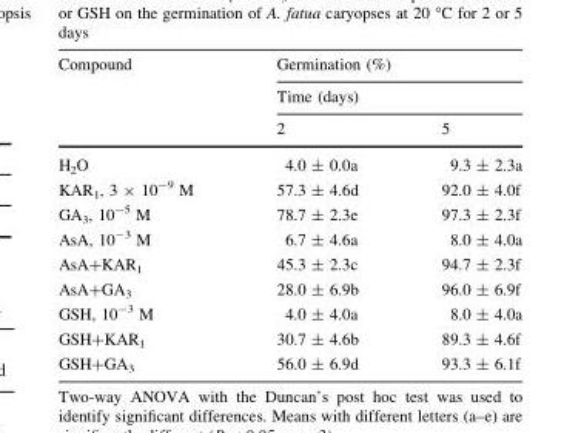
<table><thead><tr><td rowspan="3">Compound</td><td rowspan="2" colspan="2">Germination (%) Time (days)</td></tr><tr></tr><tr><td>2</td><td>5</td></tr></thead><tbody><tr><td>H<sub>2</sub>O</td><td>4.0 ± 0.0a</td><td>9.3 ± 2.3a</td></tr><tr><td>KAR<sub>1</sub>, 3 × 10<sup>-9</sup> M</td><td>57.3 ± 4.6d</td><td>92.0 ± 4.0f</td></tr><tr><td>GA<sub>3</sub>, 10<sup>-5</sup> M</td><td>78.7 ± 2.3e</td><td>97.3 ± 2.3f</td></tr><tr><td>AsA, 10<sup>-3</sup> M</td><td>6.7 ± 4.6a</td><td>8.0 ± 4.0a</td></tr><tr><td>AsA+KAR<sub>1</sub></td><td>45.3 ± 2.3c</td><td>94.7 ± 2.3f</td></tr><tr><td>AsA+GA<sub>3</sub></td><td>28.0 ± 6.9b</td><td>96.0 ± 6.9f</td></tr><tr><td>GSH, 10<sup>-3</sup> M</td><td>4.0 ± 4.0a</td><td>8.0 ± 4.0a</td></tr><tr><td>GSH+KAR<sub>1</sub></td><td>30.7 ± 4.6b</td><td>89.3 ± 4.6f</td></tr><tr><td>GSH+GA<sub>3</sub></td><td>56.0 ± 6.9d</td><td>93.3 ± 6.1f</td></tr></tbody></table>